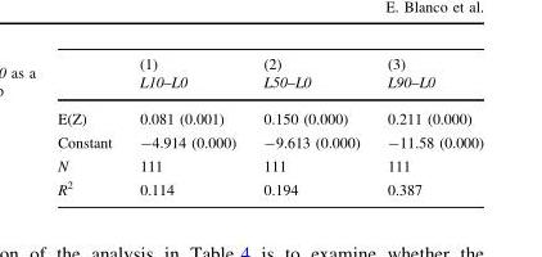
<table><thead><tr><td rowspan="2"></td><td rowspan="2">(1) L10–L0</td><td rowspan="2">(2) L50–L0</td><td rowspan="2">(3) L90–L0</td></tr><tr></tr></thead><tbody><tr><td>E(Z)</td><td>0.081 (0.001)</td><td>0.150 (0.000)</td><td>0.211 (0.000)</td></tr><tr><td>Constant</td><td>-4.914 (0.000)</td><td>-9.613 (0.000)</td><td>-11.58 (0.000)</td></tr><tr><td>N</td><td>111</td><td>111</td><td>111</td></tr><tr><td>R<sup>2</sup></td><td>0.114</td><td>0.194</td><td>0.387</td></tr></tbody></table>